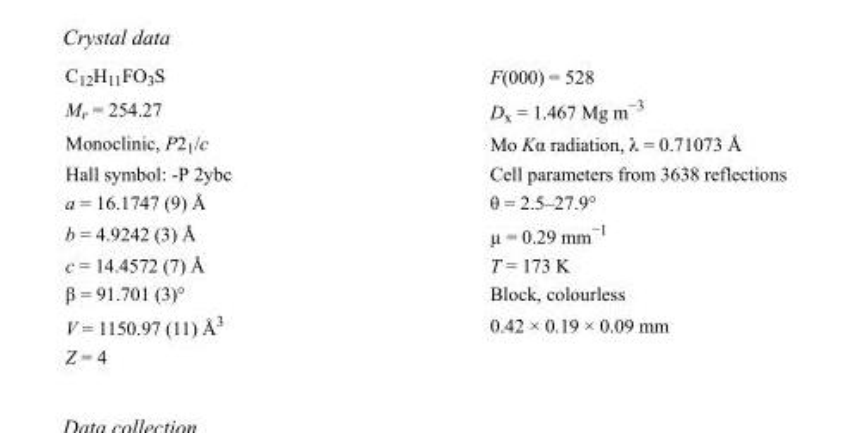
<table><tbody><tr><td>C<sub>12</sub>H<sub>11</sub>FO<sub>3</sub>S</td><td>F(000) = 528</td></tr><tr><td>M<sub>r</sub> = 254.27</td><td>D<sub>x</sub> = 1.467 Mg m<sup>−3</sup></td></tr><tr><td>Monoclinic, P2<sub>1</sub>/c</td><td>Mo Kα radiation, λ = 0.71073 Å</td></tr><tr><td>Hall symbol: -P 2ybc</td><td>Cell parameters from 3638 reflections</td></tr><tr><td>a = 16.1747 (9) Å</td><td>θ = 2.5–27.9°</td></tr><tr><td>b = 4.9242 (3) Å</td><td>µ = 0.29 mm<sup>−1</sup></td></tr><tr><td>c = 14.4572 (7) Å</td><td>T = 173 K</td></tr><tr><td>β = 91.701 (3)°</td><td>Block, colourless</td></tr><tr><td>V = 1150.97 (11) Å<sup>3</sup></td><td>0.42 × 0.19 × 0.09 mm</td></tr><tr><td>Z = 4</td><td></td></tr></tbody></table>